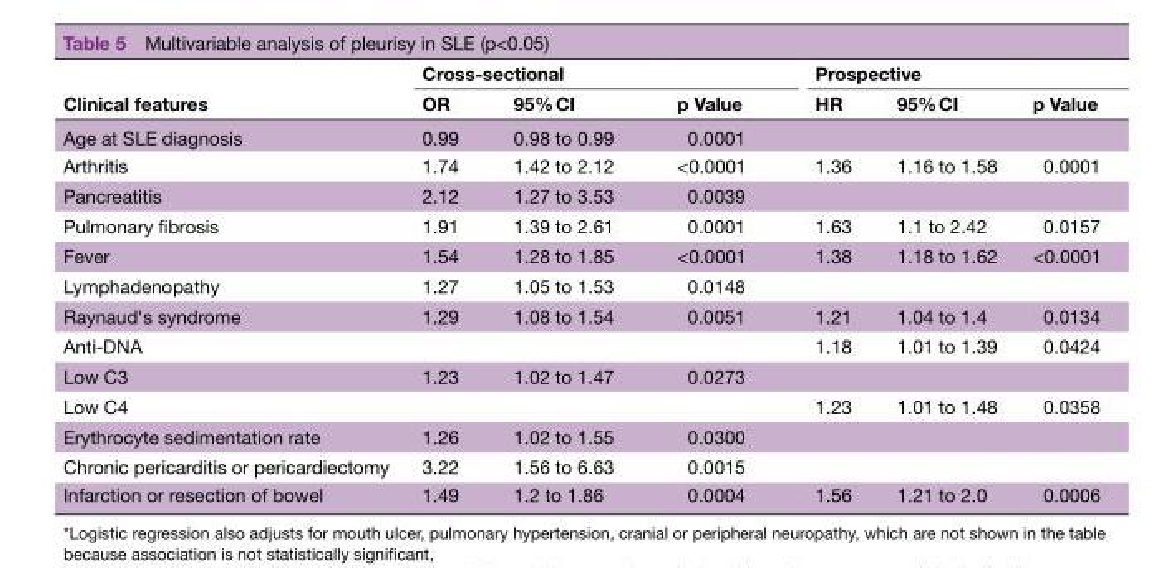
<table><thead><tr><td rowspan="2">Clinical features</td><td colspan="3">Cross-sectional</td><td colspan="3">Prospective</td></tr><tr><td>OR</td><td>95% CI</td><td>p Value</td><td>HR</td><td>95% CI</td><td>p Value</td></tr></thead><tbody><tr><td>Age at SLE diagnosis</td><td>0.99</td><td>0.98 to 0.99</td><td>0.0001</td><td></td><td></td><td></td></tr><tr><td>Arthritis</td><td>1.74</td><td>1.42 to 2.12</td><td>&lt;0.0001</td><td>1.36</td><td>1.16 to 1.58</td><td>0.0001</td></tr><tr><td>Pancreatitis</td><td>2.12</td><td>1.27 to 3.53</td><td>0.0039</td><td></td><td></td><td></td></tr><tr><td>Pulmonary fibrosis</td><td>1.91</td><td>1.39 to 2.61</td><td>0.0001</td><td>1.63</td><td>1.1 to 2.42</td><td>0.0157</td></tr><tr><td>Fever</td><td>1.54</td><td>1.28 to 1.85</td><td>&lt;0.0001</td><td>1.38</td><td>1.18 to 1.62</td><td>&lt;0.0001</td></tr><tr><td>Lymphadenopathy</td><td>1.27</td><td>1.05 to 1.53</td><td>0.0148</td><td></td><td></td><td></td></tr><tr><td>Raynaud&#x27;s syndrome</td><td>1.29</td><td>1.08 to 1.54</td><td>0.0051</td><td>1.21</td><td>1.04 to 1.4</td><td>0.0134</td></tr><tr><td>Anti-DNA</td><td></td><td></td><td></td><td>1.18</td><td>1.01 to 1.39</td><td>0.0424</td></tr><tr><td>Low C3</td><td>1.23</td><td>1.02 to 1.47</td><td>0.0273</td><td></td><td></td><td></td></tr><tr><td>Low C4</td><td></td><td></td><td></td><td>1.23</td><td>1.01 to 1.48</td><td>0.0358</td></tr><tr><td>Erythrocyte sedimentation rate</td><td>1.26</td><td>1.02 to 1.55</td><td>0.0300</td><td></td><td></td><td></td></tr><tr><td>Chronic pericarditis or pericardiectomy</td><td>3.22</td><td>1.56 to 6.63</td><td>0.0015</td><td></td><td></td><td></td></tr><tr><td>Infarction or resection of bowel</td><td>1.49</td><td>1.2 to 1.86</td><td>0.0004</td><td>1.56</td><td>1.21 to 2.0</td><td>0.0006</td></tr></tbody></table>